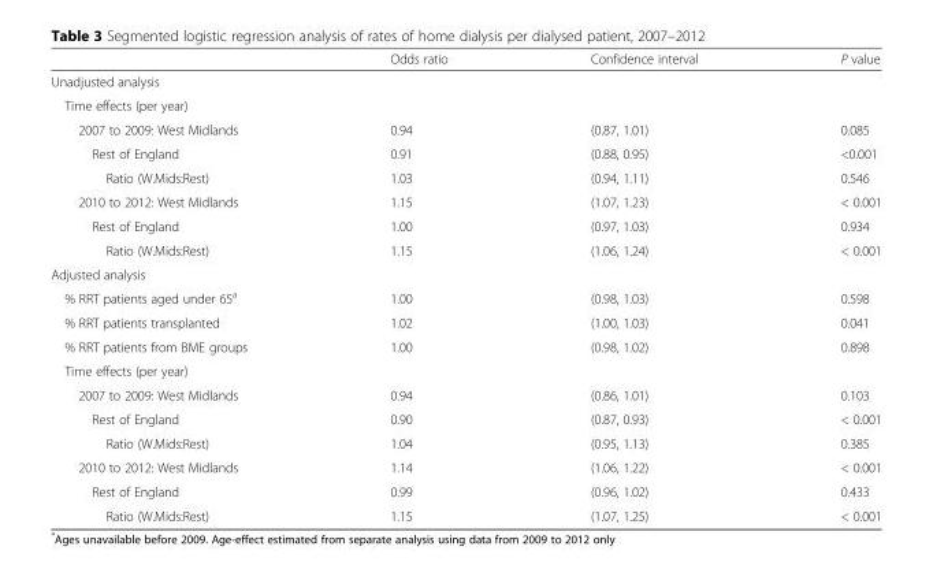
<table><thead><tr><td></td><td>Odds ratio</td><td>Confidence interval</td><td>P value</td></tr></thead><tbody><tr><td colspan="4">Unadjusted analysis</td></tr><tr><td colspan="4">Time effects (per year)</td></tr><tr><td>2007 to 2009: West Midlands</td><td>0.94</td><td>(0.87, 1.01)</td><td>0.085</td></tr><tr><td>Rest of England</td><td>0.91</td><td>(0.88, 0.95)</td><td>&lt;0.001</td></tr><tr><td>Ratio (W.Mids:Rest)</td><td>1.03</td><td>(0.94, 1.11)</td><td>0.546</td></tr><tr><td>2010 to 2012: West Midlands</td><td>1.15</td><td>(1.07, 1.23)</td><td>&lt; 0.001</td></tr><tr><td>Rest of England</td><td>1.00</td><td>(0.97, 1.03)</td><td>0.934</td></tr><tr><td>Ratio (W.Mids:Rest)</td><td>1.15</td><td>(1.06, 1.24)</td><td>&lt; 0.001</td></tr><tr><td colspan="4">Adjusted analysis</td></tr><tr><td>% RRT patients aged under 65<sup>a</sup></td><td>1.00</td><td>(0.98, 1.03)</td><td>0.598</td></tr><tr><td>% RRT patients transplanted</td><td>1.02</td><td>(1.00, 1.03)</td><td>0.041</td></tr><tr><td>% RRT patients from BME groups</td><td>1.00</td><td>(0.98, 1.02)</td><td>0.898</td></tr><tr><td colspan="4">Time effects (per year)</td></tr><tr><td>2007 to 2009: West Midlands</td><td>0.94</td><td>(0.86, 1.01)</td><td>0.103</td></tr><tr><td>Rest of England</td><td>0.90</td><td>(0.87, 0.93)</td><td>&lt; 0.001</td></tr><tr><td>Ratio (W.Mids:Rest)</td><td>1.04</td><td>(0.95, 1.13)</td><td>0.385</td></tr><tr><td>2010 to 2012: West Midlands</td><td>1.14</td><td>(1.06, 1.22)</td><td>&lt; 0.001</td></tr><tr><td>Rest of England</td><td>0.99</td><td>(0.96, 1.02)</td><td>0.433</td></tr><tr><td>Ratio (W.Mids:Rest)</td><td>1.15</td><td>(1.07, 1.25)</td><td>&lt; 0.001</td></tr></tbody></table>